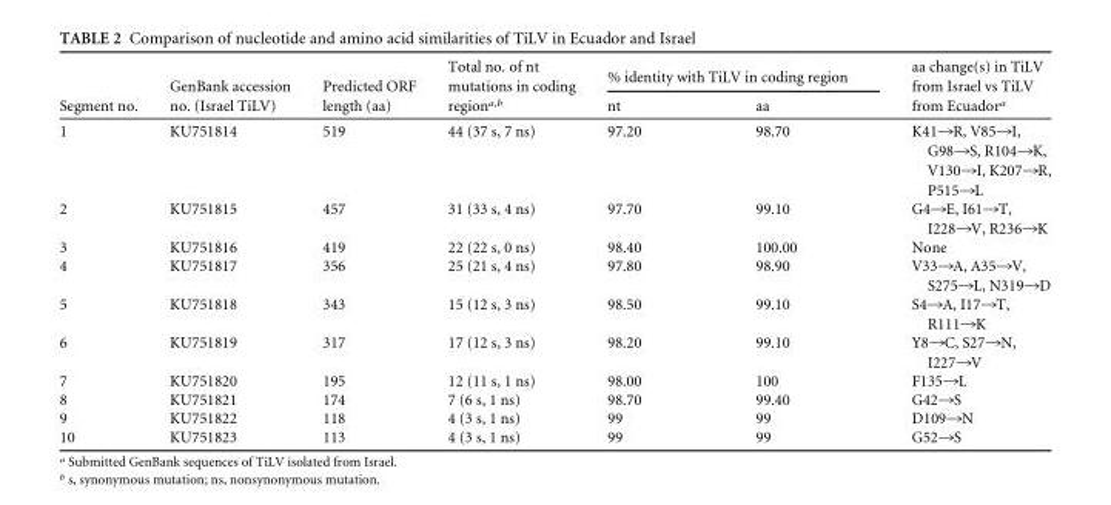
<table><thead><tr><td rowspan="2">Segment no.</td><td rowspan="2">GenBank accession no. (Israel TiLV)</td><td rowspan="2">Predicted ORF length (aa)</td><td rowspan="2">Total no. of nt mutations in coding region<sup>a,b</sup></td><td colspan="2">% identity with TiLV in coding region</td><td rowspan="2">aa change(s) in TiLV from Israel vs TiLV from Ecuador<sup>a</sup></td></tr><tr><td>nt</td><td>aa</td></tr></thead><tbody><tr><td>1</td><td>KU751814</td><td>519</td><td>44 (37 s, 7 ns)</td><td>97.20</td><td>98.70</td><td>K41→R, V85→I, G98→S, R104→K, V130→I, K207→R, P515→L</td></tr><tr><td>2</td><td>KU751815</td><td>457</td><td>31 (33 s, 4 ns)</td><td>97.70</td><td>99.10</td><td>G4→E, I61→T, I228→V, R236→K</td></tr><tr><td>3</td><td>KU751816</td><td>419</td><td>22 (22 s, 0 ns)</td><td>98.40</td><td>100.00</td><td>None</td></tr><tr><td>4</td><td>KU751817</td><td>356</td><td>25 (21 s, 4 ns)</td><td>97.80</td><td>98.90</td><td>V33→A, A35→V, S275→L, N319→D</td></tr><tr><td>5</td><td>KU751818</td><td>343</td><td>15 (12 s, 3 ns)</td><td>98.50</td><td>99.10</td><td>S4→A, I17→T, R111→K</td></tr><tr><td>6</td><td>KU751819</td><td>317</td><td>17 (12 s, 3 ns)</td><td>98.20</td><td>99.10</td><td>Y8→C, S27→N, I227→V</td></tr><tr><td>7</td><td>KU751820</td><td>195</td><td>12 (11 s, 1 ns)</td><td>98.00</td><td>100</td><td>F135→L</td></tr><tr><td>8</td><td>KU751821</td><td>174</td><td>7 (6 s, 1 ns)</td><td>98.70</td><td>99.40</td><td>G42→S</td></tr><tr><td>9</td><td>KU751822</td><td>118</td><td>4 (3 s, 1 ns)</td><td>99</td><td>99</td><td>D109→N</td></tr><tr><td>10</td><td>KU751823</td><td>113</td><td>4 (3 s, 1 ns)</td><td>99</td><td>99</td><td>G52→S</td></tr></tbody></table>